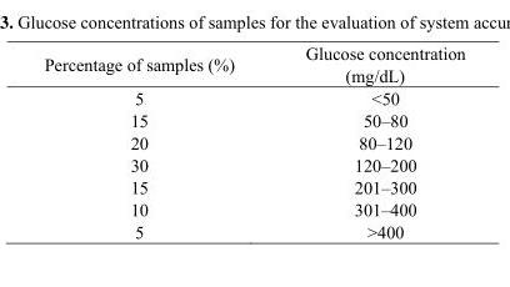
<table><thead><tr><td>Percentage of samples (%)</td><td>Glucose concentration (mg/dL)</td></tr></thead><tbody><tr><td>5</td><td>&lt;50</td></tr><tr><td>15</td><td>50–80</td></tr><tr><td>20</td><td>80–120</td></tr><tr><td>30</td><td>120–200</td></tr><tr><td>15</td><td>201–300</td></tr><tr><td>10</td><td>301–400</td></tr><tr><td>5</td><td>&gt;400</td></tr></tbody></table>